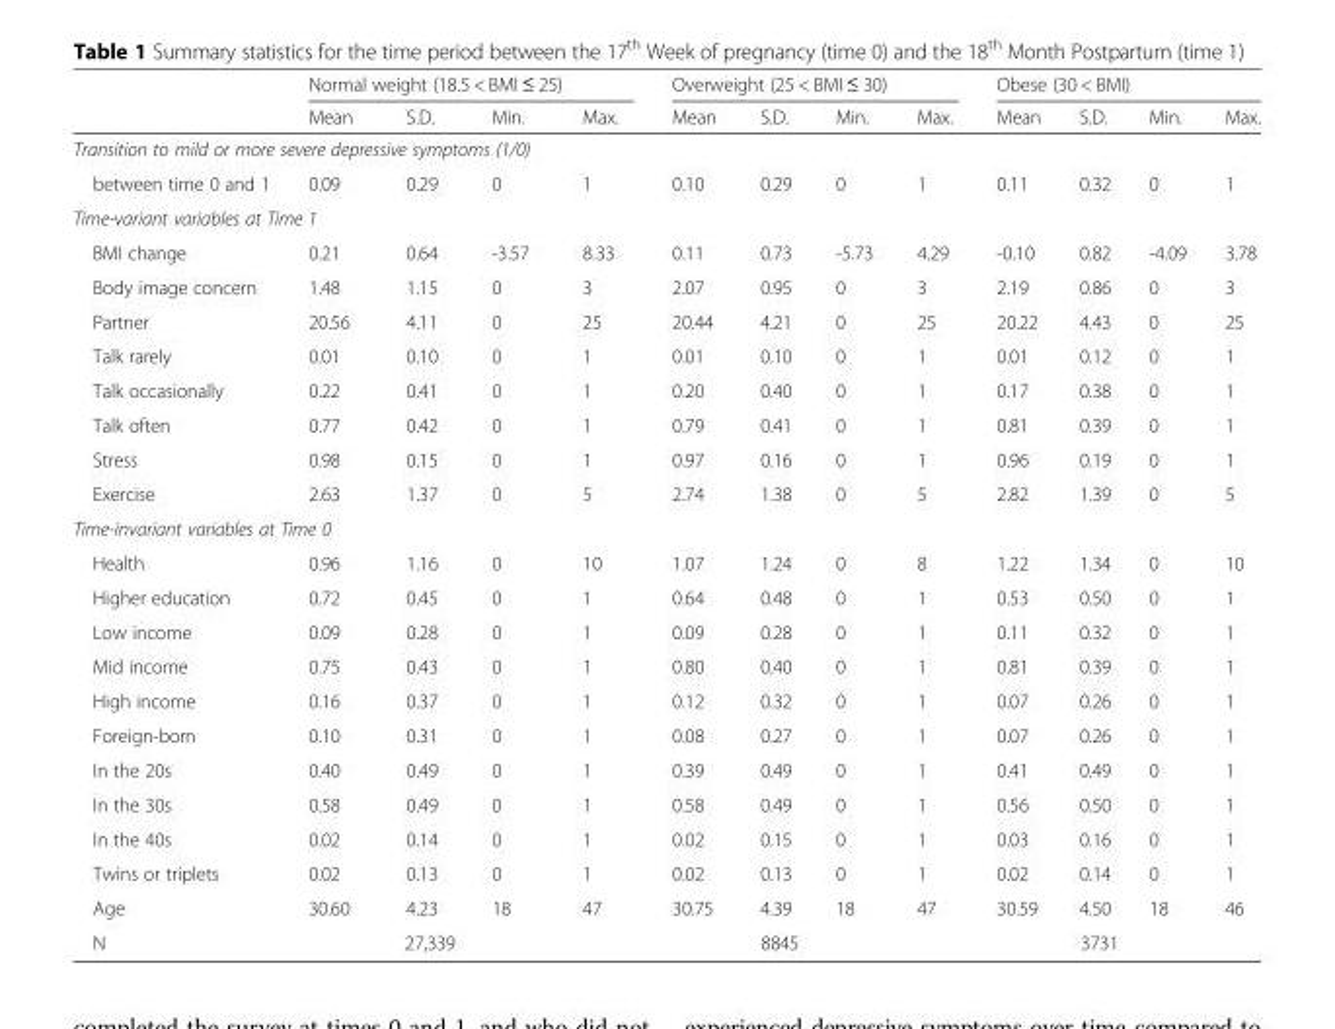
<table><thead><tr><td rowspan="2"></td><td colspan="4">Normal weight (18.5 &lt; BMI ≤ 25)</td><td colspan="4">Overweight (25 &lt; BMI ≤ 30)</td><td colspan="4">Obese (30 &lt; BMI)</td></tr><tr><td>Mean</td><td>S.D.</td><td>Min.</td><td>Max.</td><td>Mean</td><td>S.D.</td><td>Min.</td><td>Max.</td><td>Mean</td><td>S.D.</td><td>Min.</td><td>Max.</td></tr></thead><tbody><tr><td colspan="13">Transition to mild or more severe depressive symptoms (1/0)</td></tr><tr><td>between time 0 and 1</td><td>0.09</td><td>0.29</td><td>0</td><td>1</td><td>0.10</td><td>0.29</td><td>0</td><td>1</td><td>0.11</td><td>0.32</td><td>0</td><td>1</td></tr><tr><td colspan="13">Time-variant variables at Time 1</td></tr><tr><td>BMI change</td><td>0.21</td><td>0.64</td><td>-3.57</td><td>8.33</td><td>0.11</td><td>0.73</td><td>-5.73</td><td>4.29</td><td>-0.10</td><td>0.82</td><td>-4.09</td><td>3.78</td></tr><tr><td>Body image concern</td><td>1.48</td><td>1.15</td><td>0</td><td>3</td><td>2.07</td><td>0.95</td><td>0</td><td>3</td><td>2.19</td><td>0.86</td><td>0</td><td>3</td></tr><tr><td>Partner</td><td>20.56</td><td>4.11</td><td>0</td><td>25</td><td>20.44</td><td>4.21</td><td>0</td><td>25</td><td>20.22</td><td>4.43</td><td>0</td><td>25</td></tr><tr><td>Talk rarely</td><td>0.01</td><td>0.10</td><td>0</td><td>1</td><td>0.01</td><td>0.10</td><td>0</td><td>1</td><td>0.01</td><td>0.12</td><td>0</td><td>1</td></tr><tr><td>Talk occasionally</td><td>0.22</td><td>0.41</td><td>0</td><td>1</td><td>0.20</td><td>0.40</td><td>0</td><td>1</td><td>0.17</td><td>0.38</td><td>0</td><td>1</td></tr><tr><td>Talk often</td><td>0.77</td><td>0.42</td><td>0</td><td>1</td><td>0.79</td><td>0.41</td><td>0</td><td>1</td><td>0.81</td><td>0.39</td><td>0</td><td>1</td></tr><tr><td>Stress</td><td>0.98</td><td>0.15</td><td>0</td><td>1</td><td>0.97</td><td>0.16</td><td>0</td><td>1</td><td>0.96</td><td>0.19</td><td>0</td><td>1</td></tr><tr><td>Exercise</td><td>2.63</td><td>1.37</td><td>0</td><td>5</td><td>2.74</td><td>1.38</td><td>0</td><td>5</td><td>2.82</td><td>1.39</td><td>0</td><td>5</td></tr><tr><td colspan="13">Time-invariant variables at Time 0</td></tr><tr><td>Health</td><td>0.96</td><td>1.16</td><td>0</td><td>10</td><td>1.07</td><td>1.24</td><td>0</td><td>8</td><td>1.22</td><td>1.34</td><td>0</td><td>10</td></tr><tr><td>Higher education</td><td>0.72</td><td>0.45</td><td>0</td><td>1</td><td>0.64</td><td>0.48</td><td>0</td><td>1</td><td>0.53</td><td>0.50</td><td>0</td><td>1</td></tr><tr><td>Low income</td><td>0.09</td><td>0.28</td><td>0</td><td>1</td><td>0.09</td><td>0.28</td><td>0</td><td>1</td><td>0.11</td><td>0.32</td><td>0</td><td>1</td></tr><tr><td>Mid income</td><td>0.75</td><td>0.43</td><td>0</td><td>1</td><td>0.80</td><td>0.40</td><td>0</td><td>1</td><td>0.81</td><td>0.39</td><td>0</td><td>1</td></tr><tr><td>High income</td><td>0.16</td><td>0.37</td><td>0</td><td>1</td><td>0.12</td><td>0.32</td><td>0</td><td>1</td><td>0.07</td><td>0.26</td><td>0</td><td>1</td></tr><tr><td>Foreign-born</td><td>0.10</td><td>0.31</td><td>0</td><td>1</td><td>0.08</td><td>0.27</td><td>0</td><td>1</td><td>0.07</td><td>0.26</td><td>0</td><td>1</td></tr><tr><td>In the 20s</td><td>0.40</td><td>0.49</td><td>0</td><td>1</td><td>0.39</td><td>0.49</td><td>0</td><td>1</td><td>0.41</td><td>0.49</td><td>0</td><td>1</td></tr><tr><td>In the 30s</td><td>0.58</td><td>0.49</td><td>0</td><td>1</td><td>0.58</td><td>0.49</td><td>0</td><td>1</td><td>0.56</td><td>0.50</td><td>0</td><td>1</td></tr><tr><td>In the 40s</td><td>0.02</td><td>0.14</td><td>0</td><td>1</td><td>0.02</td><td>0.15</td><td>0</td><td>1</td><td>0.03</td><td>0.16</td><td>0</td><td>1</td></tr><tr><td>Twins or triplets</td><td>0.02</td><td>0.13</td><td>0</td><td>1</td><td>0.02</td><td>0.13</td><td>0</td><td>1</td><td>0.02</td><td>0.14</td><td>0</td><td>1</td></tr><tr><td>Age</td><td>30.60</td><td>4.23</td><td>18</td><td>47</td><td>30.75</td><td>4.39</td><td>18</td><td>47</td><td>30.59</td><td>4.50</td><td>18</td><td>46</td></tr><tr><td>N</td><td colspan="4">27,339</td><td colspan="4">8845</td><td colspan="4">3731</td></tr></tbody></table>